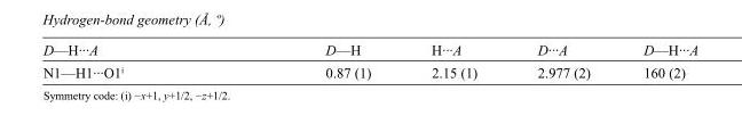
<table><tbody><tr><td>D—H···A</td><td>D—H</td><td>H···A</td><td>D···A</td><td>D—H···A</td></tr><tr><td>N1—H1···O1<sup>i</sup></td><td>0.87 (1)</td><td>2.15 (1)</td><td>2.977 (2)</td><td>160 (2)</td></tr></tbody></table>